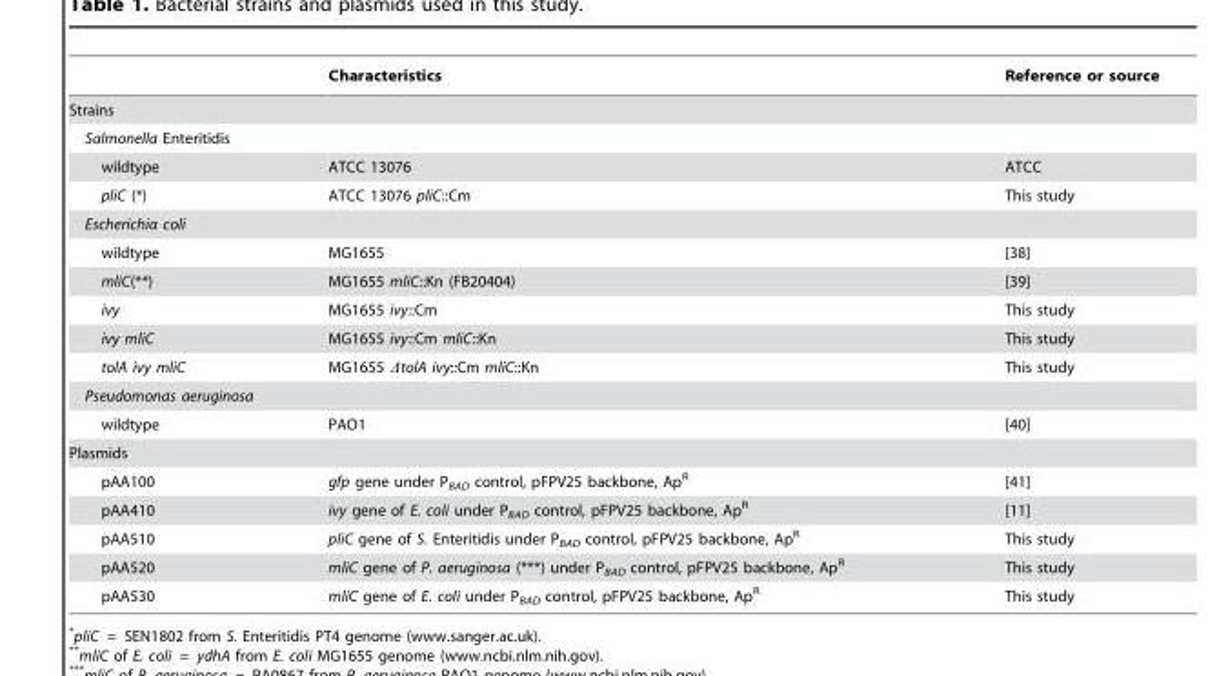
<table><thead><tr><td></td><td>Characteristics</td><td>Reference or source</td></tr></thead><tbody><tr><td colspan="3">Strains</td></tr><tr><td colspan="3">Salmonella Enteritidis</td></tr><tr><td>wildtype</td><td>ATCC 13076</td><td>ATCC</td></tr><tr><td>pliC (*)</td><td>ATCC 13076 pliC::Cm</td><td>This study</td></tr><tr><td colspan="3">Escherichia coli</td></tr><tr><td>wildtype</td><td>MG1655</td><td>[38]</td></tr><tr><td>mliC(**)</td><td>MG1655 mliC::Kn (FB20404)</td><td>[39]</td></tr><tr><td>ivy</td><td>MG1655 ivy::Cm</td><td>This study</td></tr><tr><td>ivy mliC</td><td>MG1655 ivy::Cm mliC::Kn</td><td>This study</td></tr><tr><td>tolA ivy mliC</td><td>MG1655 ΔtolA ivy::Cm mliC::Kn</td><td>This study</td></tr><tr><td colspan="3">Pseudomonas aeruginosa</td></tr><tr><td>wildtype</td><td>PAO1</td><td>[40]</td></tr><tr><td colspan="3">Plasmids</td></tr><tr><td>pAA100</td><td>gfp gene under P<sub>BAD</sub> control, pFPV25 backbone, Ap<sup>R</sup></td><td>[41]</td></tr><tr><td>pAA410</td><td>ivy gene of E. coli under P<sub>BAD</sub> control, pFPV25 backbone, Ap<sup>R</sup></td><td>[11]</td></tr><tr><td>pAA510</td><td>pliC gene of S. Enteritidis under P<sub>BAD</sub> control, pFPV25 backbone, Ap<sup>R</sup></td><td>This study</td></tr><tr><td>pAA520</td><td>mliC gene of P. aeruginosa (***) under P<sub>BAD</sub> control, pFPV25 backbone, Ap<sup>R</sup></td><td>This study</td></tr><tr><td>pAA530</td><td>mliC gene of E. coli under P<sub>BAD</sub> control, pFPV25 backbone, Ap<sup>R</sup></td><td>This study</td></tr></tbody></table>